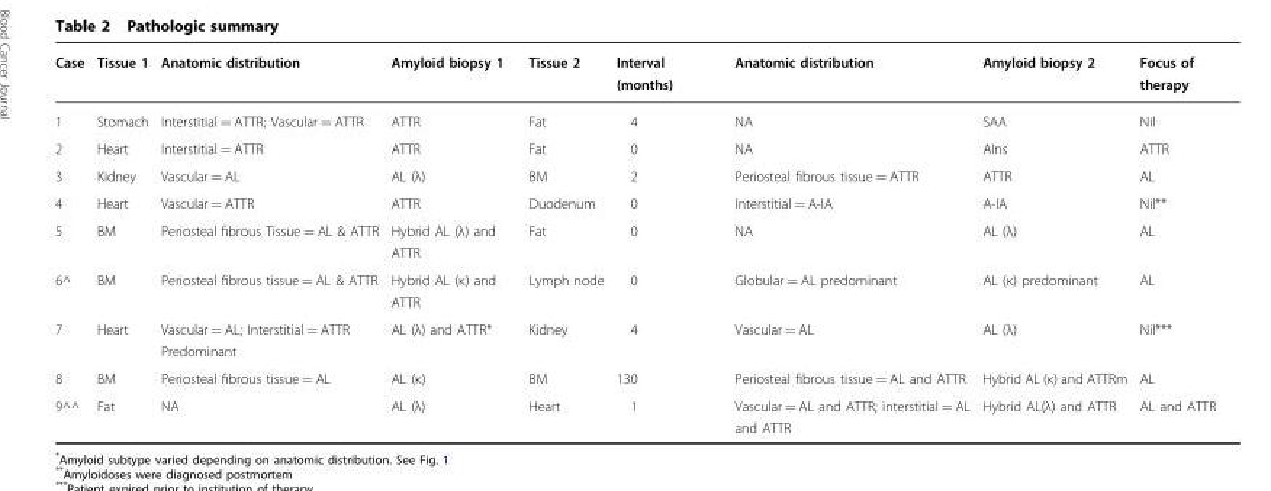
<table><thead><tr><td>Case</td><td>Tissue 1</td><td>Anatomic distribution</td><td>Amyloid biopsy 1</td><td>Tissue 2</td><td>Interval (months)</td><td>Anatomic distribution</td><td>Amyloid biopsy 2</td><td>Focus of therapy</td></tr></thead><tbody><tr><td>1</td><td>Stomach</td><td>Interstitial = ATTR; Vascular = ATTR</td><td>ATTR</td><td>Fat</td><td>4</td><td>NA</td><td>SAA</td><td>Nil</td></tr><tr><td>2</td><td>Heart</td><td>Interstitial = ATTR</td><td>ATTR</td><td>Fat</td><td>0</td><td>NA</td><td>AIns</td><td>ATTR</td></tr><tr><td>3</td><td>Kidney</td><td>Vascular = AL</td><td>AL (λ)</td><td>BM</td><td>2</td><td>Periosteal fibrous tissue = ATTR</td><td>ATTR</td><td>AL</td></tr><tr><td>4</td><td>Heart</td><td>Vascular = ATTR</td><td>ATTR</td><td>Duodenum</td><td>0</td><td>Interstitial = A-IA</td><td>A-IA</td><td>Nil**</td></tr><tr><td>5</td><td>BM</td><td>Periosteal fibrous Tissue = AL &amp; ATTR</td><td>Hybrid AL (λ) and ATTR</td><td>Fat</td><td>0</td><td>NA</td><td>AL (λ)</td><td>AL</td></tr><tr><td>6^</td><td>BM</td><td>Periosteal fibrous tissue = AL &amp; ATTR</td><td>Hybrid AL (κ) and ATTR</td><td>Lymph node</td><td>0</td><td>Globular = AL predominant</td><td>AL (κ) predominant</td><td>AL</td></tr><tr><td>7</td><td>Heart</td><td>Vascular = AL; Interstitial = ATTR Predominant</td><td>AL (λ) and ATTR*</td><td>Kidney</td><td>4</td><td>Vascular = AL</td><td>AL (λ)</td><td>Nil***</td></tr><tr><td>8</td><td>BM</td><td>Periosteal fibrous tissue = AL</td><td>AL (κ)</td><td>BM</td><td>130</td><td>Periosteal fibrous tissue = AL and ATTR</td><td>Hybrid AL (κ) and ATTRm</td><td>AL</td></tr><tr><td>9^^</td><td>Fat</td><td>NA</td><td>AL (λ)</td><td>Heart</td><td>1</td><td>Vascular = AL and ATTR; interstitial = AL and ATTR</td><td>Hybrid AL(λ) and ATTR</td><td>AL and ATTR</td></tr></tbody></table>